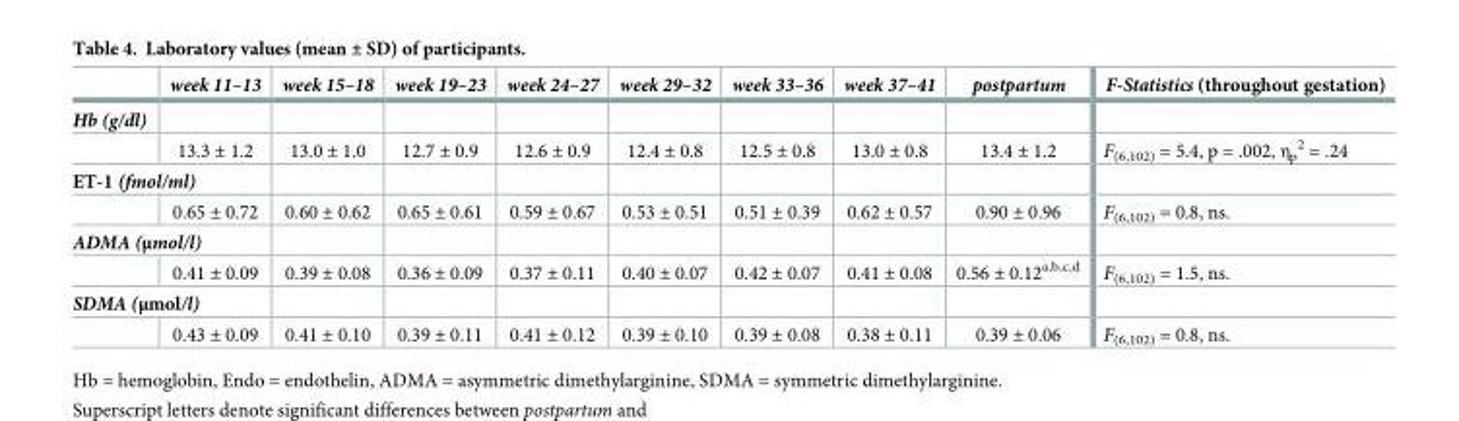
<table><thead><tr><td></td><td>week 11–13</td><td>week 15–18</td><td>week 19–23</td><td>week 24–27</td><td>week 29–32</td><td>week 33–36</td><td>week 37–41</td><td>postpartum</td><td>F-Statistics (throughout gestation)</td></tr></thead><tbody><tr><td colspan="10">Hb (g/dl)</td></tr><tr><td></td><td>13.3 ± 1.2</td><td>13.0 ± 1.0</td><td>12.7 ± 0.9</td><td>12.6 ± 0.9</td><td>12.4 ± 0.8</td><td>12.5 ± 0.8</td><td>13.0 ± 0.8</td><td>13.4 ± 1.2</td><td>F<sub>(6,102)</sub> = 5.4, p = .002, η<sub>p</sub> <sup>2</sup> = .24</td></tr><tr><td colspan="10">ET-1 (fmol/ml)</td></tr><tr><td></td><td>0.65 ± 0.72</td><td>0.60 ± 0.62</td><td>0.65 ± 0.61</td><td>0.59 ± 0.67</td><td>0.53 ± 0.51</td><td>0.51 ± 0.39</td><td>0.62 ± 0.57</td><td>0.90 ± 0.96</td><td>F<sub>(6,102)</sub> = 0.8, ns.</td></tr><tr><td colspan="10">ADMA (μmol/l)</td></tr><tr><td></td><td>0.41 ± 0.09</td><td>0.39 ± 0.08</td><td>0.36 ± 0.09</td><td>0.37 ± 0.11</td><td>0.40 ± 0.07</td><td>0.42 ± 0.07</td><td>0.41 ± 0.08</td><td>0.56 ± 0.12<sup>a,b,c,d</sup></td><td>F<sub>(6,102)</sub> = 1.5, ns.</td></tr><tr><td colspan="10">SDMA (μmol/l)</td></tr><tr><td></td><td>0.43 ± 0.09</td><td>0.41 ± 0.10</td><td>0.39 ± 0.11</td><td>0.41 ± 0.12</td><td>0.39 ± 0.10</td><td>0.39 ± 0.08</td><td>0.38 ± 0.11</td><td>0.39 ± 0.06</td><td>F<sub>(6,102)</sub> = 0.8, ns.</td></tr></tbody></table>